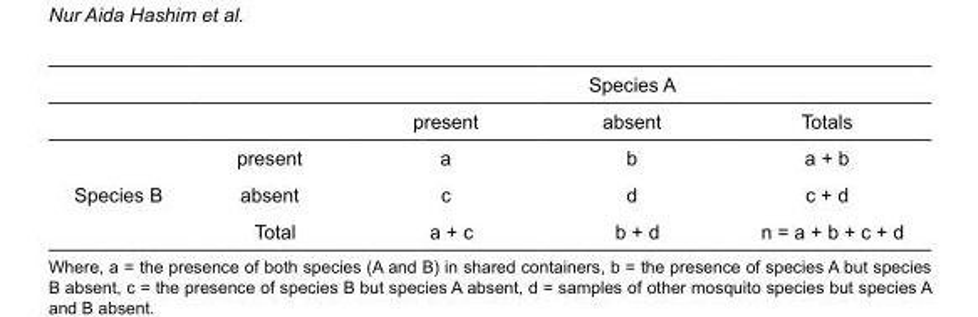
<table><thead><tr><td colspan="5">Species A</td></tr><tr><td></td><td></td><td>present</td><td>absent</td><td>Totals</td></tr></thead><tbody><tr><td></td><td>present</td><td>a</td><td>b</td><td>a + b</td></tr><tr><td rowspan="2">Species B</td><td>absent</td><td>c</td><td>d</td><td>c + d</td></tr><tr><td>Total</td><td>a + c</td><td>b + d</td><td>n = a + b + c + d</td></tr></tbody></table>